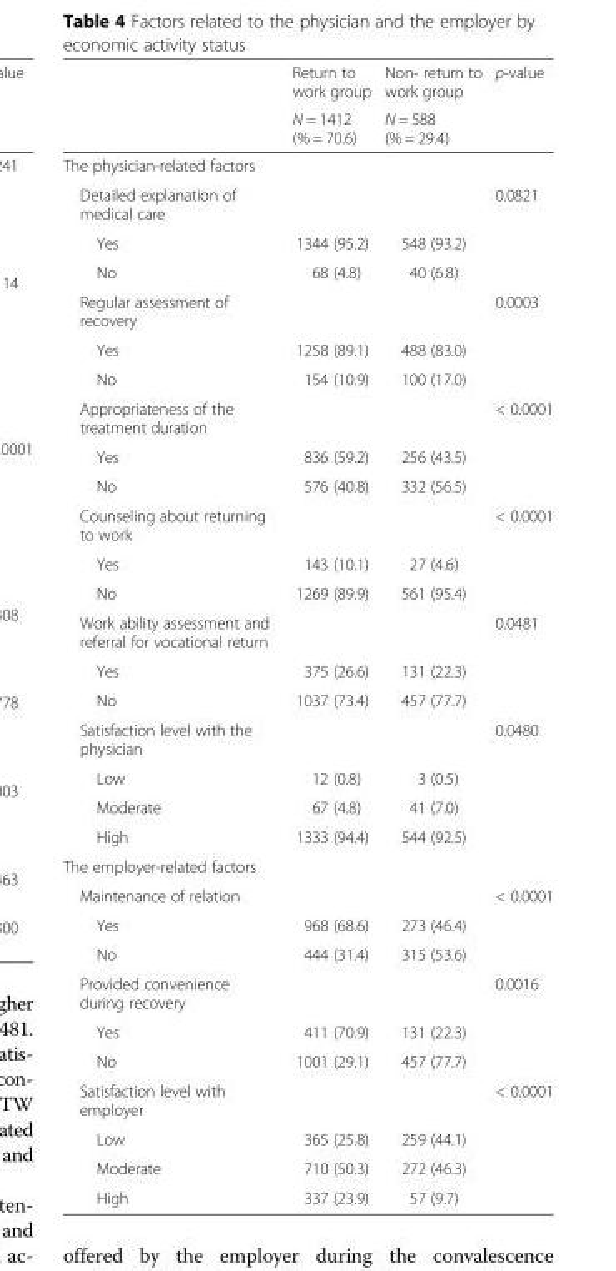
<table><thead><tr><td rowspan="2"></td><td rowspan="2">Return to work group N = 1412 (% = 70.6)</td><td rowspan="2">Non- return to work group N = 588 (% = 29.4)</td><td rowspan="2">p-value</td></tr><tr></tr></thead><tbody><tr><td colspan="4">The physician-related factors</td></tr><tr><td>Detailed explanation of medical care</td><td></td><td></td><td>0.0821</td></tr><tr><td>Yes</td><td>1344 (95.2)</td><td>548 (93.2)</td><td></td></tr><tr><td>No</td><td>68 (4.8)</td><td>40 (6.8)</td><td></td></tr><tr><td>Regular assessment of recovery</td><td></td><td></td><td>0.0003</td></tr><tr><td>Yes</td><td>1258 (89.1)</td><td>488 (83.0)</td><td></td></tr><tr><td>No</td><td>154 (10.9)</td><td>100 (17.0)</td><td></td></tr><tr><td>Appropriateness of the treatment duration</td><td></td><td></td><td>&lt; 0.0001</td></tr><tr><td>Yes</td><td>836 (59.2)</td><td>256 (43.5)</td><td></td></tr><tr><td>No</td><td>576 (40.8)</td><td>332 (56.5)</td><td></td></tr><tr><td>Counseling about returning to work</td><td></td><td></td><td>&lt; 0.0001</td></tr><tr><td>Yes</td><td>143 (10.1)</td><td>27 (4.6)</td><td></td></tr><tr><td>No</td><td>1269 (89.9)</td><td>561 (95.4)</td><td></td></tr><tr><td>Work ability assessment and referral for vocational return</td><td></td><td></td><td>0.0481</td></tr><tr><td>Yes</td><td>375 (26.6)</td><td>131 (22.3)</td><td></td></tr><tr><td>No</td><td>1037 (73.4)</td><td>457 (77.7)</td><td></td></tr><tr><td>Satisfaction level with the physician</td><td></td><td></td><td>0.0480</td></tr><tr><td>Low</td><td>12 (0.8)</td><td>3 (0.5)</td><td></td></tr><tr><td>Moderate</td><td>67 (4.8)</td><td>41 (7.0)</td><td></td></tr><tr><td>High</td><td>1333 (94.4)</td><td>544 (92.5)</td><td></td></tr><tr><td colspan="4">The employer-related factors</td></tr><tr><td>Maintenance of relation</td><td></td><td></td><td>&lt; 0.0001</td></tr><tr><td>Yes</td><td>968 (68.6)</td><td>273 (46.4)</td><td></td></tr><tr><td>No</td><td>444 (31.4)</td><td>315 (53.6)</td><td></td></tr><tr><td>Provided convenience during recovery</td><td></td><td></td><td>0.0016</td></tr><tr><td>Yes</td><td>411 (70.9)</td><td>131 (22.3)</td><td></td></tr><tr><td>No</td><td>1001 (29.1)</td><td>457 (77.7)</td><td></td></tr><tr><td>Satisfaction level with employer</td><td></td><td></td><td>&lt; 0.0001</td></tr><tr><td>Low</td><td>365 (25.8)</td><td>259 (44.1)</td><td></td></tr><tr><td>Moderate</td><td>710 (50.3)</td><td>272 (46.3)</td><td></td></tr><tr><td>High</td><td>337 (23.9)</td><td>57 (9.7)</td><td></td></tr></tbody></table>